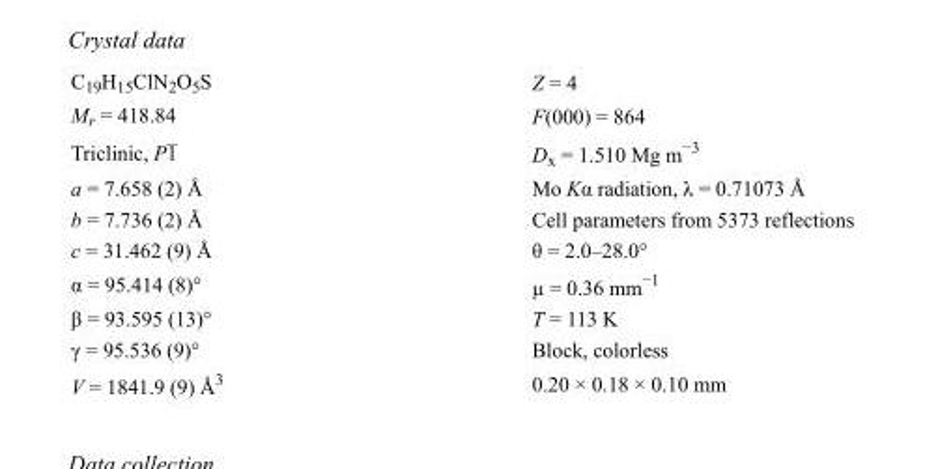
<table><tbody><tr><td>C<sub>19</sub>H<sub>15</sub>ClN<sub>2</sub>O<sub>5</sub>S</td><td>Z = 4</td></tr><tr><td>M<sub>r</sub> = 418.84</td><td>F(000) = 864</td></tr><tr><td>Triclinic, P1</td><td>D<sub>x</sub> = 1.510 Mg m<sup>−3</sup></td></tr><tr><td>a = 7.658 (2) Å</td><td>Mo Kα radiation, λ = 0.71073 Å</td></tr><tr><td>b = 7.736 (2) Å</td><td>Cell parameters from 5373 reflections</td></tr><tr><td>c = 31.462 (9) Å</td><td>θ = 2.0–28.0°</td></tr><tr><td>α = 95.414 (8)°</td><td>µ = 0.36 mm<sup>−1</sup></td></tr><tr><td>β = 93.595 (13)°</td><td>T = 113 K</td></tr><tr><td>γ = 95.536 (9)°</td><td>Block, colorless</td></tr><tr><td>V = 1841.9 (9) Å<sup>3</sup></td><td>0.20 × 0.18 × 0.10 mm</td></tr></tbody></table>